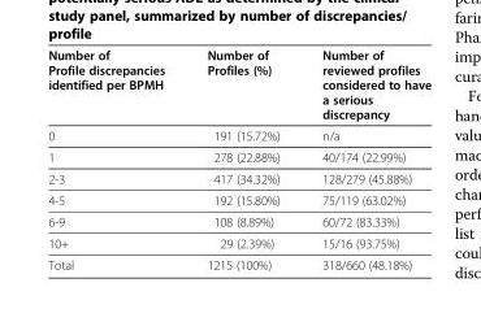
<table><thead><tr><td>Number of Profile discrepancies identified per BPMH</td><td>Number of Profiles (%)</td><td>Number of reviewed profiles considered to have a serious discrepancy</td></tr></thead><tbody><tr><td>0</td><td>191 (15.72%)</td><td>n/a</td></tr><tr><td>1</td><td>278 (22.88%)</td><td>40/174 (22.99%)</td></tr><tr><td>2-3</td><td>417 (34.32%)</td><td>128/279 (45.88%)</td></tr><tr><td>4-5</td><td>192 (15.80%)</td><td>75/119 (63.02%)</td></tr><tr><td>6-9</td><td>108 (8.89%)</td><td>60/72 (83.33%)</td></tr><tr><td>10+</td><td>29 (2.39%)</td><td>15/16 (93.75%)</td></tr><tr><td>Total</td><td>1215 (100%)</td><td>318/660 (48.18%)</td></tr></tbody></table>